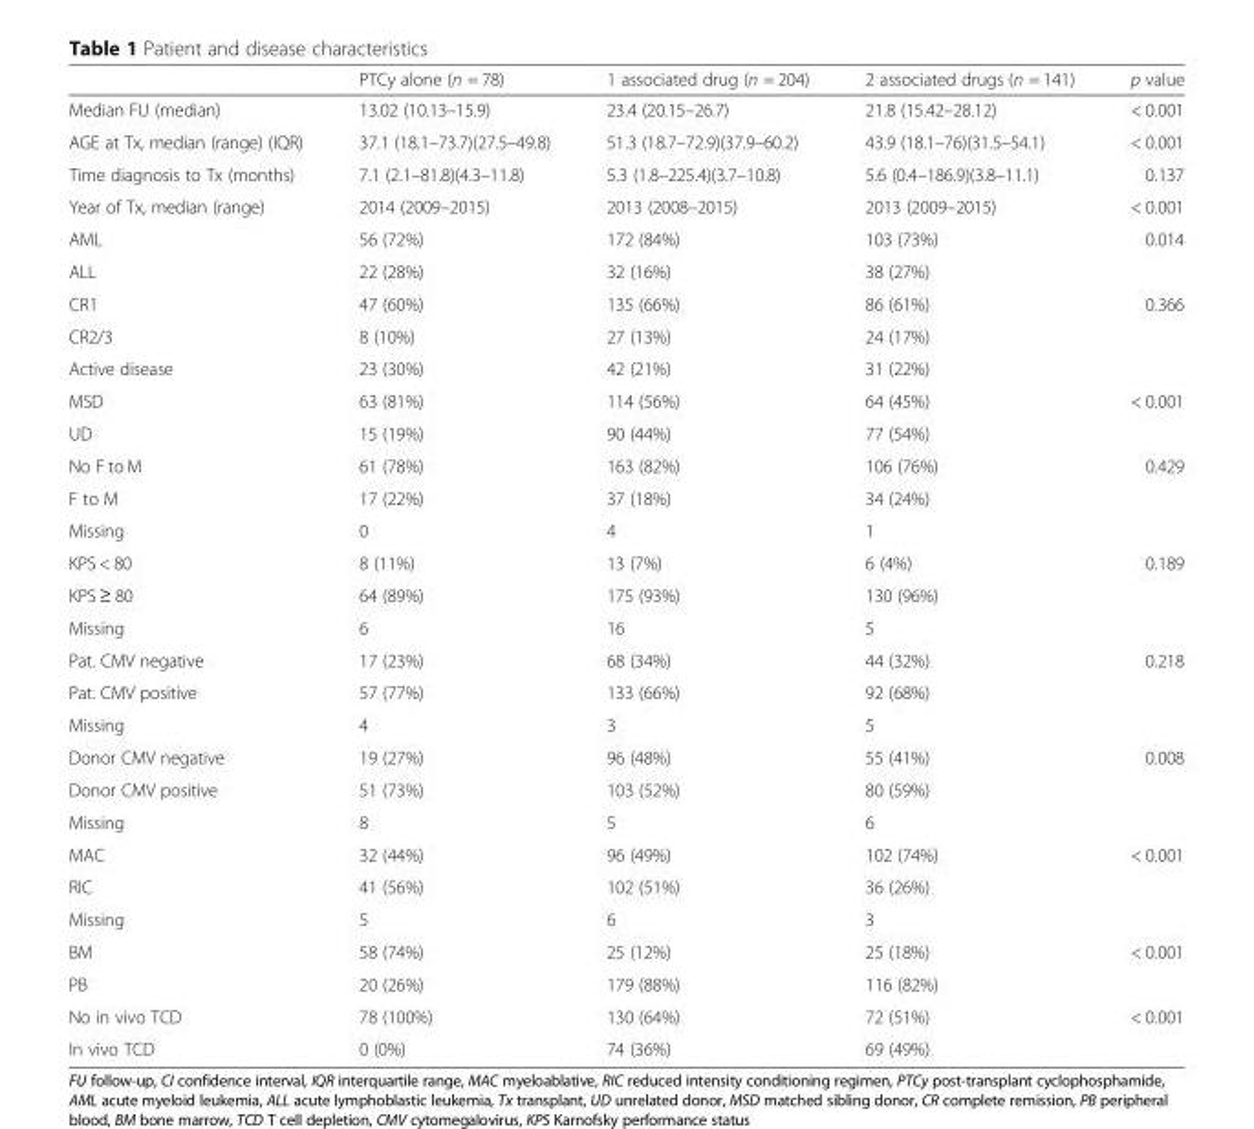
<table><thead><tr><td></td><td>PTCy alone (n = 78)</td><td>1 associated drug (n = 204)</td><td>2 associated drugs (n = 141)</td><td>p value</td></tr></thead><tbody><tr><td>Median FU (median)</td><td>13.02 (10.13–15.9)</td><td>23.4 (20.15–26.7)</td><td>21.8 (15.42–28.12)</td><td>&lt; 0.001</td></tr><tr><td>AGE at Tx, median (range) (IQR)</td><td>37.1 (18.1–73.7)(27.5–49.8)</td><td>51.3 (18.7–72.9)(37.9–60.2)</td><td>43.9 (18.1–76)(31.5–54.1)</td><td>&lt; 0.001</td></tr><tr><td>Time diagnosis to Tx (months)</td><td>7.1 (2.1–81.8)(4.3–11.8)</td><td>5.3 (1.8–225.4)(3.7–10.8)</td><td>5.6 (0.4–186.9)(3.8–11.1)</td><td>0.137</td></tr><tr><td>Year of Tx, median (range)</td><td>2014 (2009–2015)</td><td>2013 (2008–2015)</td><td>2013 (2009–2015)</td><td>&lt; 0.001</td></tr><tr><td>AML</td><td>56 (72%)</td><td>172 (84%)</td><td>103 (73%)</td><td rowspan="2">0.014</td></tr><tr><td>ALL</td><td>22 (28%)</td><td>32 (16%)</td><td>38 (27%)</td></tr><tr><td>CR1</td><td>47 (60%)</td><td>135 (66%)</td><td>86 (61%)</td><td rowspan="3">0.366</td></tr><tr><td>CR2/3</td><td>8 (10%)</td><td>27 (13%)</td><td>24 (17%)</td></tr><tr><td>Active disease</td><td>23 (30%)</td><td>42 (21%)</td><td>31 (22%)</td></tr><tr><td>MSD</td><td>63 (81%)</td><td>114 (56%)</td><td>64 (45%)</td><td rowspan="2">&lt; 0.001</td></tr><tr><td>UD</td><td>15 (19%)</td><td>90 (44%)</td><td>77 (54%)</td></tr><tr><td>No F to M</td><td>61 (78%)</td><td>163 (82%)</td><td>106 (76%)</td><td rowspan="3">0.429</td></tr><tr><td>F to M</td><td>17 (22%)</td><td>37 (18%)</td><td>34 (24%)</td></tr><tr><td>Missing</td><td>0</td><td>4</td><td>1</td></tr><tr><td>KPS &lt; 80</td><td>8 (11%)</td><td>13 (7%)</td><td>6 (4%)</td><td rowspan="3">0.189</td></tr><tr><td>KPS ≥ 80</td><td>64 (89%)</td><td>175 (93%)</td><td>130 (96%)</td></tr><tr><td>Missing</td><td>6</td><td>16</td><td>5</td></tr><tr><td>Pat. CMV negative</td><td>17 (23%)</td><td>68 (34%)</td><td>44 (32%)</td><td rowspan="3">0.218</td></tr><tr><td>Pat. CMV positive</td><td>57 (77%)</td><td>133 (66%)</td><td>92 (68%)</td></tr><tr><td>Missing</td><td>4</td><td>3</td><td>5</td></tr><tr><td>Donor CMV negative</td><td>19 (27%)</td><td>96 (48%)</td><td>55 (41%)</td><td rowspan="3">0.008</td></tr><tr><td>Donor CMV positive</td><td>51 (73%)</td><td>103 (52%)</td><td>80 (59%)</td></tr><tr><td>Missing</td><td>8</td><td>5</td><td>6</td></tr><tr><td>MAC</td><td>32 (44%)</td><td>96 (49%)</td><td>102 (74%)</td><td rowspan="3">&lt; 0.001</td></tr><tr><td>RIC</td><td>41 (56%)</td><td>102 (51%)</td><td>36 (26%)</td></tr><tr><td>Missing</td><td>5</td><td>6</td><td>3</td></tr><tr><td>BM</td><td>58 (74%)</td><td>25 (12%)</td><td>25 (18%)</td><td rowspan="2">&lt; 0.001</td></tr><tr><td>PB</td><td>20 (26%)</td><td>179 (88%)</td><td>116 (82%)</td></tr><tr><td>No in vivo TCD</td><td>78 (100%)</td><td>130 (64%)</td><td>72 (51%)</td><td rowspan="2">&lt; 0.001</td></tr><tr><td>In vivo TCD</td><td>0 (0%)</td><td>74 (36%)</td><td>69 (49%)</td></tr></tbody></table>